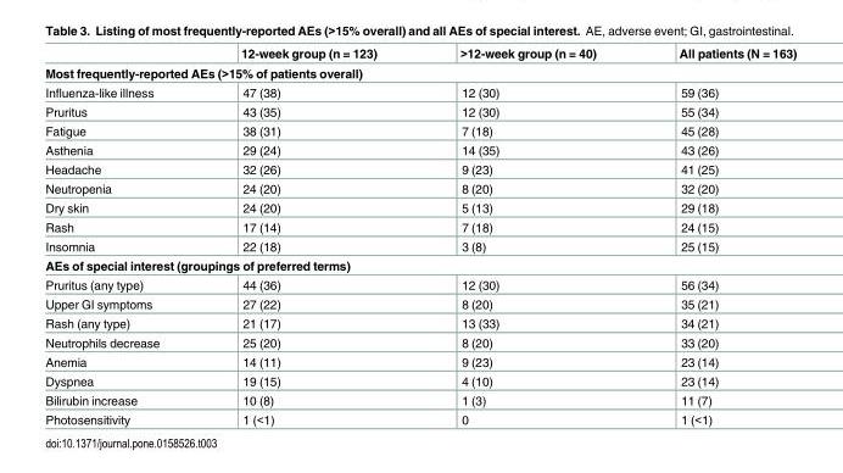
<table><thead><tr><td></td><td>12-week group (n = 123)</td><td>&gt;12-week group (n = 40)</td><td>All patients (N = 163)</td></tr></thead><tbody><tr><td colspan="4">Most frequently-reported AEs (&gt;15% of patients overall)</td></tr><tr><td>Influenza-like illness</td><td>47 (38)</td><td>12 (30)</td><td>59 (36)</td></tr><tr><td>Pruritus</td><td>43 (35)</td><td>12 (30)</td><td>55 (34)</td></tr><tr><td>Fatigue</td><td>38 (31)</td><td>7 (18)</td><td>45 (28)</td></tr><tr><td>Asthenia</td><td>29 (24)</td><td>14 (35)</td><td>43 (26)</td></tr><tr><td>Headache</td><td>32 (26)</td><td>9 (23)</td><td>41 (25)</td></tr><tr><td>Neutropenia</td><td>24 (20)</td><td>8 (20)</td><td>32 (20)</td></tr><tr><td>Dry skin</td><td>24 (20)</td><td>5 (13)</td><td>29 (18)</td></tr><tr><td>Rash</td><td>17 (14)</td><td>7 (18)</td><td>24 (15)</td></tr><tr><td>Insomnia</td><td>22 (18)</td><td>3 (8)</td><td>25 (15)</td></tr><tr><td colspan="4">AEs of special interest (groupings of preferred terms)</td></tr><tr><td>Pruritus (any type)</td><td>44 (36)</td><td>12 (30)</td><td>56 (34)</td></tr><tr><td>Upper GI symptoms</td><td>27 (22)</td><td>8 (20)</td><td>35 (21)</td></tr><tr><td>Rash (any type)</td><td>21 (17)</td><td>13 (33)</td><td>34 (21)</td></tr><tr><td>Neutrophils decrease</td><td>25 (20)</td><td>8 (20)</td><td>33 (20)</td></tr><tr><td>Anemia</td><td>14 (11)</td><td>9 (23)</td><td>23 (14)</td></tr><tr><td>Dyspnea</td><td>19 (15)</td><td>4 (10)</td><td>23 (14)</td></tr><tr><td>Bilirubin increase</td><td>10 (8)</td><td>1 (3)</td><td>11 (7)</td></tr><tr><td>Photosensitivity</td><td>1 (&lt;1)</td><td>0</td><td>1 (&lt;1)</td></tr></tbody></table>